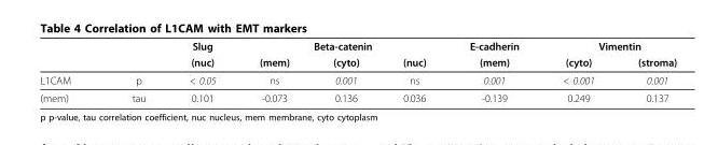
<table><thead><tr><td rowspan="2"></td><td rowspan="2"></td><td rowspan="2">Slug (nuc)</td><td colspan="3">Beta-catenin</td><td rowspan="2">E-cadherin (mem)</td><td colspan="2">Vimentin</td></tr><tr><td>(mem)</td><td>(cyto)</td><td>(nuc)</td><td>(cyto)</td><td>(stroma)</td></tr></thead><tbody><tr><td>L1CAM</td><td>p</td><td>&lt; 0.05</td><td>ns</td><td>0.001</td><td>ns</td><td>0.001</td><td>&lt; 0.001</td><td>0.001</td></tr><tr><td>(mem)</td><td>tau</td><td>0.101</td><td>-0.073</td><td>0.136</td><td>0.036</td><td>-0.139</td><td>0.249</td><td>0.137</td></tr></tbody></table>